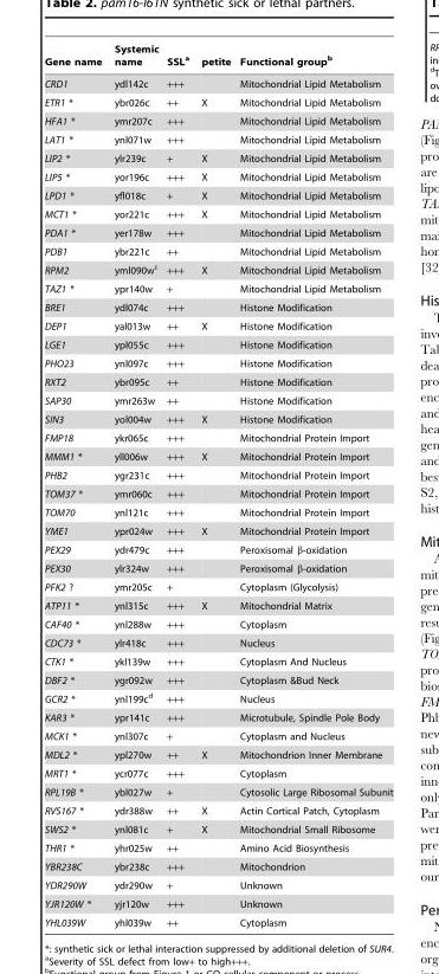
<table><thead><tr><td>Gene name</td><td>Systemic name</td><td>SSL<sup>a</sup></td><td>petite</td><td>Functional group<sup>b</sup></td></tr></thead><tbody><tr><td>CRD1</td><td>ydl142c</td><td>+++</td><td></td><td>Mitochondrial Lipid Metabolism</td></tr><tr><td>ETR1 *</td><td>ybr026c</td><td>++</td><td>X</td><td>Mitochondrial Lipid Metabolism</td></tr><tr><td>HFA1 *</td><td>ymr207c</td><td>+++</td><td></td><td>Mitochondrial Lipid Metabolism</td></tr><tr><td>LAT1 *</td><td>ynl071w</td><td>+++</td><td></td><td>Mitochondrial Lipid Metabolism</td></tr><tr><td>LIP2 *</td><td>ylr239c</td><td>+</td><td>X</td><td>Mitochondrial Lipid Metabolism</td></tr><tr><td>LIP5 *</td><td>yor196c</td><td>+++</td><td>X</td><td>Mitochondrial Lipid Metabolism</td></tr><tr><td>LPD1 *</td><td>yfl018c</td><td>+</td><td>X</td><td>Mitochondrial Lipid Metabolism</td></tr><tr><td>MCT1 *</td><td>yor221c</td><td>+++</td><td>X</td><td>Mitochondrial Lipid Metabolism</td></tr><tr><td>PDA1 *</td><td>yer178w</td><td>+++</td><td></td><td>Mitochondrial Lipid Metabolism</td></tr><tr><td>PDB1</td><td>ybr221c</td><td>++</td><td></td><td>Mitochondrial Lipid Metabolism</td></tr><tr><td>RPM2</td><td>yml090w<sup>c</sup></td><td>+++</td><td>X</td><td>Mitochondrial Lipid Metabolism</td></tr><tr><td>TAZ1 *</td><td>ypr140w</td><td>+</td><td></td><td>Mitochondrial Lipid Metabolism</td></tr><tr><td>BRE1</td><td>ydl074c</td><td>+++</td><td></td><td>Histone Modification</td></tr><tr><td>DEP1</td><td>yal013w</td><td>++</td><td>X</td><td>Histone Modification</td></tr><tr><td>LGE1</td><td>ypl055c</td><td>+++</td><td></td><td>Histone Modification</td></tr><tr><td>PHO23</td><td>ynl097c</td><td>+++</td><td></td><td>Histone Modification</td></tr><tr><td>RXT2</td><td>ybr095c</td><td>++</td><td></td><td>Histone Modification</td></tr><tr><td>SAP30</td><td>ymr263w</td><td>++</td><td></td><td>Histone Modification</td></tr><tr><td>SIN3</td><td>yol004w</td><td>+++</td><td>X</td><td>Histone Modification</td></tr><tr><td>FMP18</td><td>ykr065c</td><td>+++</td><td></td><td>Mitochondrial Protein Import</td></tr><tr><td>MMM1 *</td><td>yll006w</td><td>+++</td><td>X</td><td>Mitochondrial Protein Import</td></tr><tr><td>PHB2</td><td>ygr231c</td><td>+++</td><td></td><td>Mitochondrial Protein Import</td></tr><tr><td>TOM37 *</td><td>ymr060c</td><td>+++</td><td></td><td>Mitochondrial Protein Import</td></tr><tr><td>TOM70</td><td>ynl121c</td><td>+++</td><td></td><td>Mitochondrial Protein Import</td></tr><tr><td>YME1</td><td>ypr024w</td><td>+++</td><td>X</td><td>Mitochondrial Protein Import</td></tr><tr><td>PEX29</td><td>ydr479c</td><td>+++</td><td></td><td>Peroxisomal β-oxidation</td></tr><tr><td>PEX30</td><td>ylr324w</td><td>+++</td><td></td><td>Peroxisomal β-oxidation</td></tr><tr><td>PFK2 ?</td><td>ymr205c</td><td>+</td><td></td><td>Cytoplasm (Glycolysis)</td></tr><tr><td>ATP11 *</td><td>ynl315c</td><td>+++</td><td>X</td><td>Mitochondrial Matrix</td></tr><tr><td>CAF40 *</td><td>ynl288w</td><td>+++</td><td></td><td>Cytoplasm</td></tr><tr><td>CDC73 *</td><td>ylr418c</td><td>+++</td><td></td><td>Nucleus</td></tr><tr><td>CTK1 *</td><td>ykl139w</td><td>+++</td><td></td><td>Cytoplasm And Nucleus</td></tr><tr><td>DBF2 *</td><td>ygr092w</td><td>+++</td><td></td><td>Cytoplasm &amp;Bud Neck</td></tr><tr><td>GCR2 *</td><td>ynl199c<sup>d</sup></td><td>+++</td><td></td><td>Nucleus</td></tr><tr><td>KAR3 *</td><td>ypr141c</td><td>+++</td><td></td><td>Microtubule, Spindle Pole Body</td></tr><tr><td>MCK1 *</td><td>ynl307c</td><td>+</td><td></td><td>Cytoplasm and Nucleus</td></tr><tr><td>MDL2 *</td><td>ypl270w</td><td>++</td><td>X</td><td>Mitochondrion Inner Membrane</td></tr><tr><td>MRT1 *</td><td>ycr077c</td><td>+++</td><td></td><td>Cytoplasm</td></tr><tr><td>RPL19B *</td><td>ybl027w</td><td>+</td><td></td><td>Cytosolic Large Ribosomal Subunit</td></tr><tr><td>RVS167 *</td><td>ydr388w</td><td>++</td><td>X</td><td>Actin Cortical Patch, Cytoplasm</td></tr><tr><td>SWS2 *</td><td>ynl081c</td><td>+</td><td>X</td><td>Mitochondrial Small Ribosome</td></tr><tr><td>THR1 *</td><td>yhr025w</td><td>++</td><td></td><td>Amino Acid Biosynthesis</td></tr><tr><td>YBR238C</td><td>ybr238c</td><td>+++</td><td></td><td>Mitochondrion</td></tr><tr><td>YDR290W</td><td>ydr290w</td><td>+</td><td></td><td>Unknown</td></tr><tr><td>YJR120W *</td><td>yjr120w</td><td>+++</td><td></td><td>Unknown</td></tr><tr><td>YHL039W</td><td>yhl039w</td><td>++</td><td></td><td>Cytoplasm</td></tr></tbody></table>